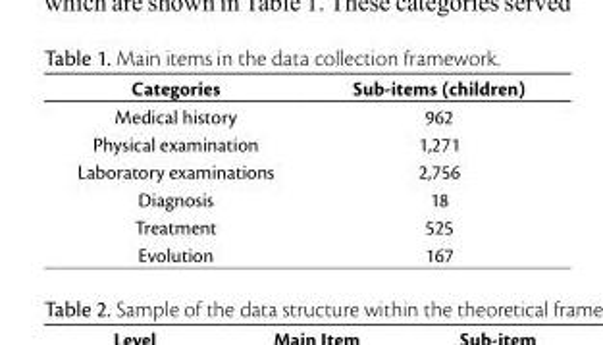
<table><thead><tr><td>Categories</td><td>Sub-items (children)</td></tr></thead><tbody><tr><td>Medical history</td><td>962</td></tr><tr><td>Physical examination</td><td>1,271</td></tr><tr><td>Laboratory examinations</td><td>2,756</td></tr><tr><td>Diagnosis</td><td>18</td></tr><tr><td>Treatment</td><td>525</td></tr><tr><td>Evolution</td><td>167</td></tr></tbody></table>